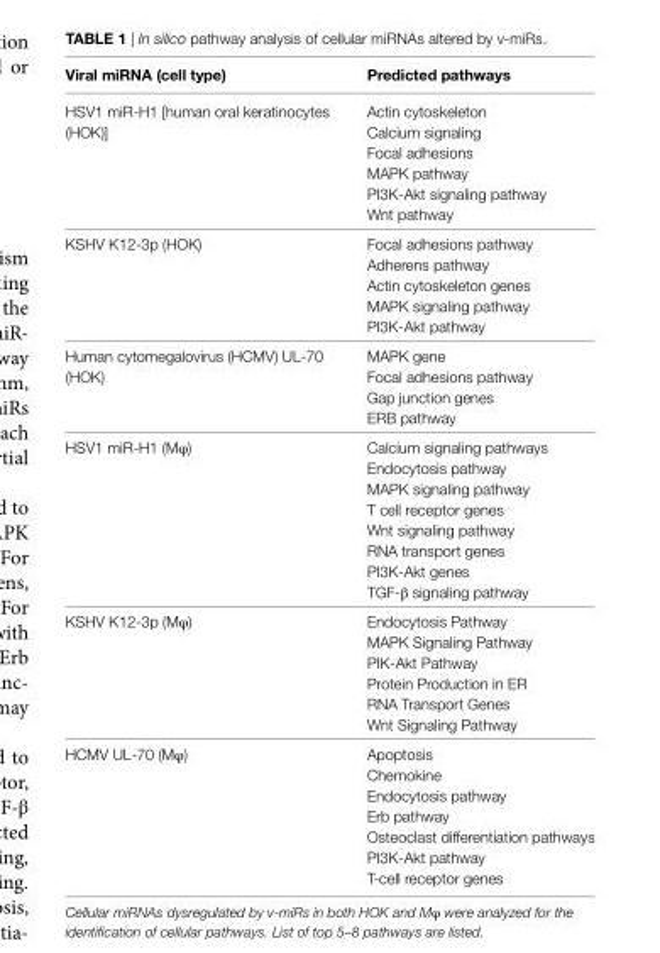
<table><thead><tr><td>Viral mirna (cell type)</td><td>Predicted pathways</td></tr></thead><tbody><tr><td>HSV1 miR-H1 [human oral keratinocytes (HOK)]</td><td>Actin cytoskeleton Calcium signaling Focal adhesions MAPK pathway PI3K-Akt signaling pathway Wnt pathway</td></tr><tr><td>KSHV K12-3p (HOK)</td><td>Focal adhesions pathway Adherens pathway Actin cytoskeleton genes MAPK signaling pathway PI3K-Akt pathway</td></tr><tr><td>Human cytomegalovirus (HCMV) UL-70 (HOK)</td><td>MAPK gene Focal adhesions pathway Gap junction genes ERB pathway</td></tr><tr><td>HSV1 miR-H1 (Mφ)</td><td>Calcium signaling pathways Endocytosis pathway MAPK signaling pathway T cell receptor genes Wnt signaling pathway RNA transport genes PI3K-Akt genes TGF-β signaling pathway</td></tr><tr><td>KSHV K12-3p (Mφ)</td><td>Endocytosis Pathway MAPK Signaling Pathway PIK-Akt Pathway Protein Production in ER RNA Transport Genes Wnt Signaling Pathway</td></tr><tr><td>HCMV UL-70 (Mφ)</td><td>Apoptosis Chemokine Endocytosis pathway Erb pathway Osteoclast differentiation pathways PI3K-Akt pathway T-cell receptor genes</td></tr></tbody></table>